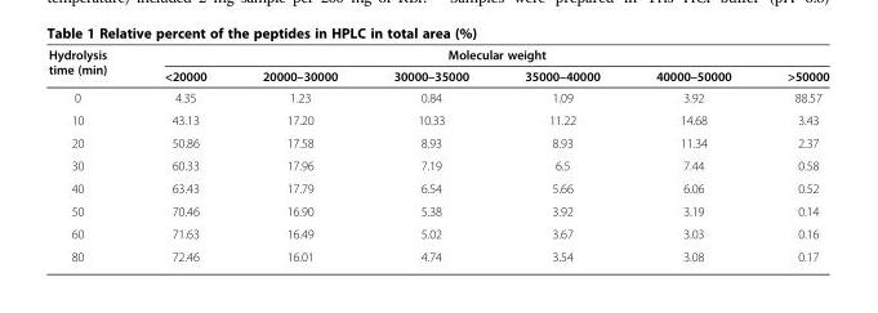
<table><thead><tr><td rowspan="2">Hydrolysis time (min)</td><td colspan="6">Molecular weight</td></tr><tr><td>&lt;20000</td><td>20000–30000</td><td>30000–35000</td><td>35000–40000</td><td>40000–50000</td><td>&gt;50000</td></tr></thead><tbody><tr><td>0</td><td>4.35</td><td>1.23</td><td>0.84</td><td>1.09</td><td>3.92</td><td>88.57</td></tr><tr><td>10</td><td>43.13</td><td>17.20</td><td>10.33</td><td>11.22</td><td>14.68</td><td>3.43</td></tr><tr><td>20</td><td>50.86</td><td>17.58</td><td>8.93</td><td>8.93</td><td>11.34</td><td>2.37</td></tr><tr><td>30</td><td>60.33</td><td>17.96</td><td>7.19</td><td>6.5</td><td>7.44</td><td>0.58</td></tr><tr><td>40</td><td>63.43</td><td>17.79</td><td>6.54</td><td>5.66</td><td>6.06</td><td>0.52</td></tr><tr><td>50</td><td>70.46</td><td>16.90</td><td>5.38</td><td>3.92</td><td>3.19</td><td>0.14</td></tr><tr><td>60</td><td>71.63</td><td>16.49</td><td>5.02</td><td>3.67</td><td>3.03</td><td>0.16</td></tr><tr><td>80</td><td>72.46</td><td>16.01</td><td>4.74</td><td>3.54</td><td>3.08</td><td>0.17</td></tr></tbody></table>